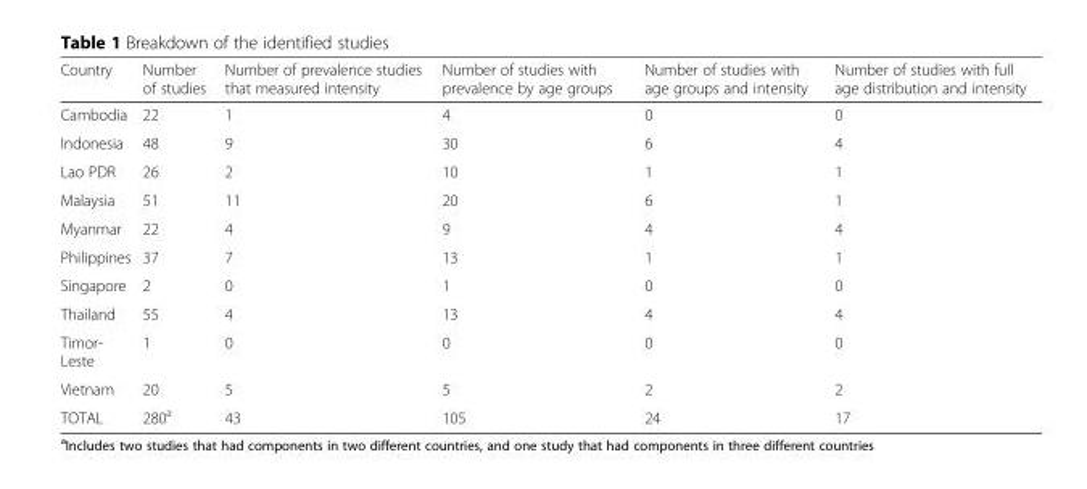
<table><thead><tr><td>Country</td><td>Number of studies</td><td>Number of prevalence studies that measured intensity</td><td>Number of studies with prevalence by age groups</td><td>Number of studies with age groups and intensity</td><td>Number of studies with full age distribution and intensity</td></tr></thead><tbody><tr><td>Cambodia</td><td>22</td><td>1</td><td>4</td><td>0</td><td>0</td></tr><tr><td>Indonesia</td><td>48</td><td>9</td><td>30</td><td>6</td><td>4</td></tr><tr><td>Lao PDR</td><td>26</td><td>2</td><td>10</td><td>1</td><td>1</td></tr><tr><td>Malaysia</td><td>51</td><td>11</td><td>20</td><td>6</td><td>1</td></tr><tr><td>Myanmar</td><td>22</td><td>4</td><td>9</td><td>4</td><td>4</td></tr><tr><td>Philippines</td><td>37</td><td>7</td><td>13</td><td>1</td><td>1</td></tr><tr><td>Singapore</td><td>2</td><td>0</td><td>1</td><td>0</td><td>0</td></tr><tr><td>Thailand</td><td>55</td><td>4</td><td>13</td><td>4</td><td>4</td></tr><tr><td>Timor- Leste</td><td>1</td><td>0</td><td>0</td><td>0</td><td>0</td></tr><tr><td>Vietnam</td><td>20</td><td>5</td><td>5</td><td>2</td><td>2</td></tr><tr><td>TOTAL</td><td>280<sup>a</sup></td><td>43</td><td>105</td><td>24</td><td>17</td></tr></tbody></table>